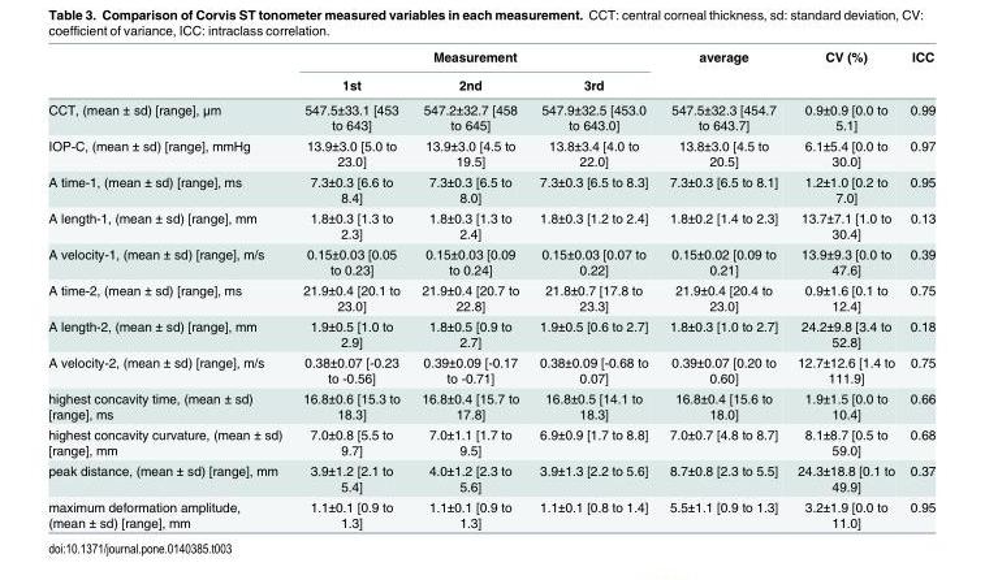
<table><thead><tr><td rowspan="2"></td><td colspan="3">Measurement</td><td rowspan="2">average</td><td rowspan="2">CV (%)</td><td rowspan="2">ICC</td></tr><tr><td>1st</td><td>2nd</td><td>3rd</td></tr></thead><tbody><tr><td>CCT, (mean ± sd) [range], μm</td><td>547.5±33.1 [453 to 643]</td><td>547.2±32.7 [458 to 645]</td><td>547.9±32.5 [453.0 to 643.0]</td><td>547.5±32.3 [454.7 to 643.7]</td><td>0.9±0.9 [0.0 to 5.1]</td><td>0.99</td></tr><tr><td>IOP-C, (mean ± sd) [range], mmHg</td><td>13.9±3.0 [5.0 to 23.0]</td><td>13.9±3.0 [4.5 to 19.5]</td><td>13.8±3.4 [4.0 to 22.0]</td><td>13.8±3.0 [4.5 to 20.5]</td><td>6.1±5.4 [0.0 to 30.0]</td><td>0.97</td></tr><tr><td>A time-1, (mean ± sd) [range], ms</td><td>7.3±0.3 [6.6 to 8.4]</td><td>7.3±0.3 [6.5 to 8.0]</td><td>7.3±0.3 [6.5 to 8.3]</td><td>7.3±0.3 [6.5 to 8.1]</td><td>1.2±1.0 [0.2 to 7.0]</td><td>0.95</td></tr><tr><td>A length-1, (mean ± sd) [range], mm</td><td>1.8±0.3 [1.3 to 2.3]</td><td>1.8±0.3 [1.3 to 2.4]</td><td>1.8±0.3 [1.2 to 2.4]</td><td>1.8±0.2 [1.4 to 2.3]</td><td>13.7±7.1 [1.0 to 30.4]</td><td>0.13</td></tr><tr><td>A velocity-1, (mean ± sd) [range], m/s</td><td>0.15±0.03 [0.05 to 0.23]</td><td>0.15±0.03 [0.09 to 0.24]</td><td>0.15±0.03 [0.07 to 0.22]</td><td>0.15±0.02 [0.09 to 0.21]</td><td>13.9±9.3 [0.0 to 47.6]</td><td>0.39</td></tr><tr><td>A time-2, (mean ± sd) [range], ms</td><td>21.9±0.4 [20.1 to 23.0]</td><td>21.9±0.4 [20.7 to 22.8]</td><td>21.8±0.7 [17.8 to 23.3]</td><td>21.9±0.4 [20.4 to 23.0]</td><td>0.9±1.6 [0.1 to 12.4]</td><td>0.75</td></tr><tr><td>A length-2, (mean ± sd) [range], mm</td><td>1.9±0.5 [1.0 to 2.9]</td><td>1.8±0.5 [0.9 to 2.7]</td><td>1.9±0.5 [0.6 to 2.7]</td><td>1.8±0.3 [1.0 to 2.7]</td><td>24.2±9.8 [3.4 to 52.8]</td><td>0.18</td></tr><tr><td>A velocity-2, (mean ± sd) [range], m/s</td><td>0.38±0.07 [-0.23 to -0.56]</td><td>0.39±0.09 [-0.17 to -0.71]</td><td>0.38±0.09 [-0.68 to 0.07]</td><td>0.39±0.07 [0.20 to 0.60]</td><td>12.7±12.6 [1.4 to 111.9]</td><td>0.75</td></tr><tr><td>highest concavity time, (mean ± sd) [range], ms</td><td>16.8±0.6 [15.3 to 18.3]</td><td>16.8±0.4 [15.7 to 17.8]</td><td>16.8±0.5 [14.1 to 18.3]</td><td>16.8±0.4 [15.6 to 18.0]</td><td>1.9±1.5 [0.0 to 10.4]</td><td>0.66</td></tr><tr><td>highest concavity curvature, (mean ± sd) [range], mm</td><td>7.0±0.8 [5.5 to 9.7]</td><td>7.0±1.1 [1.7 to 9.5]</td><td>6.9±0.9 [1.7 to 8.8]</td><td>7.0±0.7 [4.8 to 8.7]</td><td>8.1±8.7 [0.5 to 59.0]</td><td>0.68</td></tr><tr><td>peak distance, (mean ± sd) [range], mm</td><td>3.9±1.2 [2.1 to 5.4]</td><td>4.0±1.2 [2.3 to 5.6]</td><td>3.9±1.3 [2.2 to 5.6]</td><td>8.7±0.8 [2.3 to 5.5]</td><td>24.3±18.8 [0.1 to 49.9]</td><td>0.37</td></tr><tr><td>maximum deformation amplitude, (mean ± sd) [range], mm</td><td>1.1±0.1 [0.9 to 1.3]</td><td>1.1±0.1 [0.9 to 1.3]</td><td>1.1±0.1 [0.8 to 1.4]</td><td>5.5±1.1 [0.9 to 1.3]</td><td>3.2±1.9 [0.0 to 11.0]</td><td>0.95</td></tr></tbody></table>